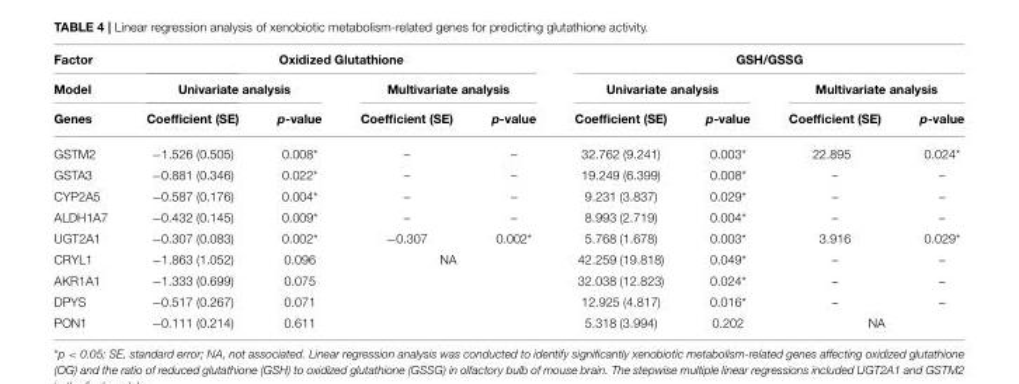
<table><thead><tr><td rowspan="3">Factor Model Genes</td><td colspan="4">Oxidized Glutathione</td><td colspan="4">GSH/GSSG</td></tr><tr><td colspan="2">Univariate analysis</td><td colspan="2">Multivariate analysis</td><td colspan="2">Univariate analysis</td><td colspan="2">Multivariate analysis</td></tr><tr><td>Coefficient (SE)</td><td>p-value</td><td>Coefficient (SE)</td><td>p-value</td><td>Coefficient (SE)</td><td>p-value</td><td>Coefficient (SE)</td><td>p-value</td></tr></thead><tbody><tr><td>GSTM2</td><td>−1.526 (0.505)</td><td>0.008*</td><td>–</td><td>–</td><td>32.762 (9.241)</td><td>0.003*</td><td>22.895</td><td>0.024*</td></tr><tr><td>GSTA3</td><td>−0.881 (0.346)</td><td>0.022*</td><td>–</td><td>–</td><td>19.249 (6.399)</td><td>0.008*</td><td>–</td><td>–</td></tr><tr><td>CYP2A5</td><td>−0.587 (0.176)</td><td>0.004*</td><td>–</td><td>–</td><td>9.231 (3.837)</td><td>0.029*</td><td>–</td><td>–</td></tr><tr><td>ALDH1A7</td><td>−0.432 (0.145)</td><td>0.009*</td><td>–</td><td>–</td><td>8.993 (2.719)</td><td>0.004*</td><td>–</td><td>–</td></tr><tr><td>UGT2A1</td><td>−0.307 (0.083)</td><td>0.002*</td><td>−0.307</td><td>0.002*</td><td>5.768 (1.678)</td><td>0.003*</td><td>3.916</td><td>0.029*</td></tr><tr><td>CRYL1</td><td>−1.863 (1.052)</td><td>0.096</td><td colspan="2">NA</td><td>42.259 (19.818)</td><td>0.049*</td><td>–</td><td>–</td></tr><tr><td>AKR1A1</td><td>−1.333 (0.699)</td><td>0.075</td><td colspan="2"></td><td>32.038 (12.823)</td><td>0.024*</td><td>–</td><td>–</td></tr><tr><td>DPYS</td><td>−0.517 (0.267)</td><td>0.071</td><td colspan="2"></td><td>12.925 (4.817)</td><td>0.016*</td><td>–</td><td>–</td></tr><tr><td>PON1</td><td>−0.111 (0.214)</td><td>0.611</td><td colspan="2"></td><td>5.318 (3.994)</td><td>0.202</td><td colspan="2">NA</td></tr></tbody></table>